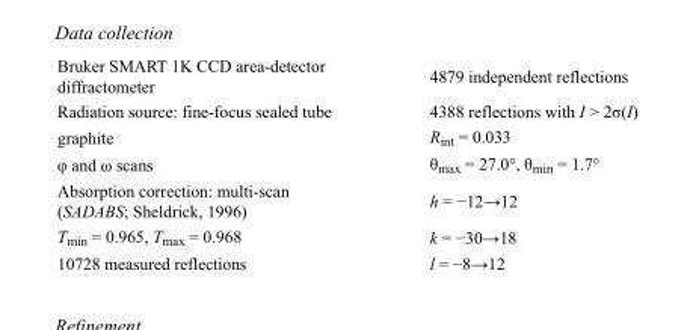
<table><tbody><tr><td>Bruker SMART 1K CCD area-detector diffractometer</td><td>4879 independent reflections</td></tr><tr><td>Radiation source: fine-focus sealed tube</td><td>4388 reflections with I &gt; 2σ(I)</td></tr><tr><td>graphite</td><td>R<sub>int</sub> = 0.033</td></tr><tr><td>φ and ω scans</td><td>θ<sub>max</sub> = 27.0°, θ<sub>min</sub> = 1.7°</td></tr><tr><td>Absorption correction: multi-scan (SADABS; Sheldrick, 1996)</td><td>h = −12→12</td></tr><tr><td>T<sub>min</sub> = 0.965, T<sub>max</sub> = 0.968</td><td>k = −30→18</td></tr><tr><td>10728 measured reflections</td><td>l = −8→12</td></tr></tbody></table>